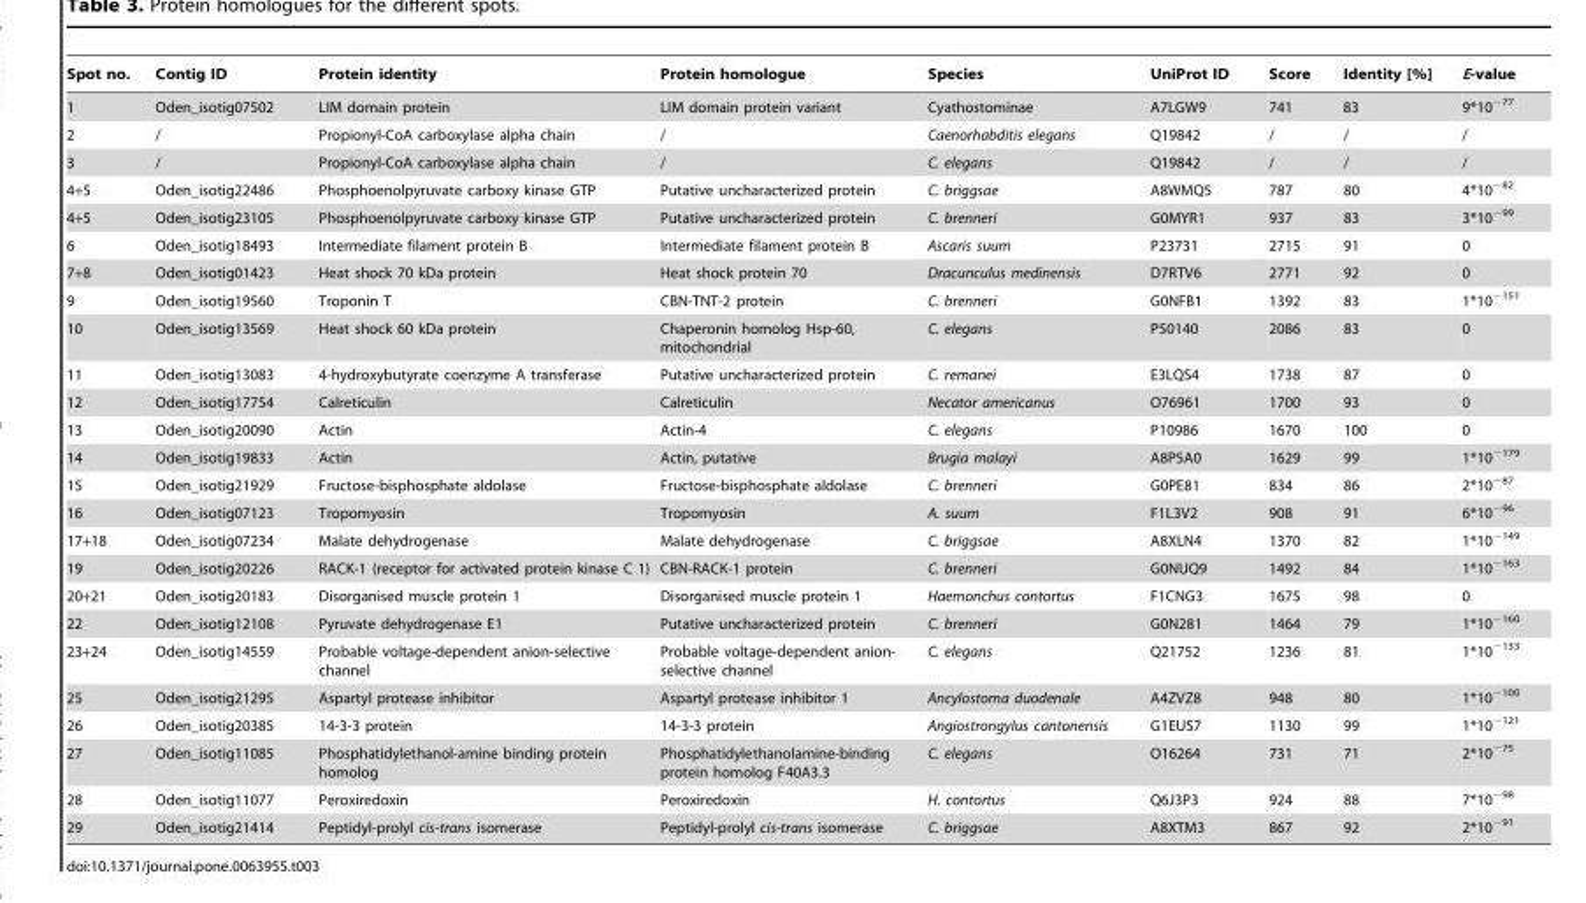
<table><thead><tr><td>Spot no.</td><td>Contig ID</td><td>Protein identity</td><td>Protein homologue</td><td>Species</td><td>UniProt ID</td><td>Score</td><td>Identity [%]</td><td>E-value</td></tr></thead><tbody><tr><td>1</td><td>Oden_isotig07502</td><td>LIM domain protein</td><td>LIM domain protein variant</td><td>Cyathostominae</td><td>A7LGW9</td><td>741</td><td>83</td><td>9*10<sup>−77</sup></td></tr><tr><td>2</td><td>/</td><td>Propionyl-CoA carboxylase alpha chain</td><td>/</td><td>Caenorhabditis elegans</td><td>Q19842</td><td>/</td><td>/</td><td>/</td></tr><tr><td>3</td><td>/</td><td>Propionyl-CoA carboxylase alpha chain</td><td>/</td><td>C. elegans</td><td>Q19842</td><td>/</td><td>/</td><td>/</td></tr><tr><td>4+5</td><td>Oden_isotig22486</td><td>Phosphoenolpyruvate carboxy kinase GTP</td><td>Putative uncharacterized protein</td><td>C. briggsae</td><td>A8WMQ5</td><td>787</td><td>80</td><td>4*10<sup>−82</sup></td></tr><tr><td>4+5</td><td>Oden_isotig23105</td><td>Phosphoenolpyruvate carboxy kinase GTP</td><td>Putative uncharacterized protein</td><td>C. brenneri</td><td>G0MYR1</td><td>937</td><td>83</td><td>3*10<sup>−99</sup></td></tr><tr><td>6</td><td>Oden_isotig18493</td><td>Intermediate filament protein B</td><td>Intermediate filament protein B</td><td>Ascaris suum</td><td>P23731</td><td>2715</td><td>91</td><td>0</td></tr><tr><td>7+8</td><td>Oden_isotig01423</td><td>Heat shock 70 kDa protein</td><td>Heat shock protein 70</td><td>Dracunculus medinensis</td><td>D7RTV6</td><td>2771</td><td>92</td><td>0</td></tr><tr><td>9</td><td>Oden_isotig19560</td><td>Troponin T</td><td>CBN-TNT-2 protein</td><td>C. brenneri</td><td>G0NFB1</td><td>1392</td><td>83</td><td>1*10<sup>−151</sup></td></tr><tr><td>10</td><td>Oden_isotig13569</td><td>Heat shock 60 kDa protein</td><td>Chaperonin homolog Hsp-60, mitochondrial</td><td>C. elegans</td><td>P50140</td><td>2086</td><td>83</td><td>0</td></tr><tr><td>11</td><td>Oden_isotig13083</td><td>4-hydroxybutyrate coenzyme A transferase</td><td>Putative uncharacterized protein</td><td>C. remanei</td><td>E3LQS4</td><td>1738</td><td>87</td><td>0</td></tr><tr><td>12</td><td>Oden_isotig17754</td><td>Calreticulin</td><td>Calreticulin</td><td>Necator americanus</td><td>O76961</td><td>1700</td><td>93</td><td>0</td></tr><tr><td>13</td><td>Oden_isotig20090</td><td>Actin</td><td>Actin-4</td><td>C. elegans</td><td>P10986</td><td>1670</td><td>100</td><td>0</td></tr><tr><td>14</td><td>Oden_isotig19833</td><td>Actin</td><td>Actin, putative</td><td>Brugia malayi</td><td>A8P5A0</td><td>1629</td><td>99</td><td>1*10<sup>−179</sup></td></tr><tr><td>15</td><td>Oden_isotig21929</td><td>Fructose-bisphosphate aldolase</td><td>Fructose-bisphosphate aldolase</td><td>C. brenneri</td><td>G0PE81</td><td>834</td><td>86</td><td>2*10<sup>−87</sup></td></tr><tr><td>16</td><td>Oden_isotig07123</td><td>Tropomyosin</td><td>Tropomyosin</td><td>A. suum</td><td>F1L3V2</td><td>908</td><td>91</td><td>6*10<sup>−96</sup></td></tr><tr><td>17+18</td><td>Oden_isotig07234</td><td>Malate dehydrogenase</td><td>Malate dehydrogenase</td><td>C. briggsae</td><td>A8XLN4</td><td>1370</td><td>82</td><td>1*10<sup>−149</sup></td></tr><tr><td>19</td><td>Oden_isotig20226</td><td>RACK-1 (receptor for activated protein kinase C 1)</td><td>CBN-RACK-1 protein</td><td>C. brenneri</td><td>G0NUQ9</td><td>1492</td><td>84</td><td>1*10<sup>−163</sup></td></tr><tr><td>20+21</td><td>Oden_isotig20183</td><td>Disorganised muscle protein 1</td><td>Disorganised muscle protein 1</td><td>Haemonchus contortus</td><td>F1CNG3</td><td>1675</td><td>98</td><td>0</td></tr><tr><td>22</td><td>Oden_isotig12108</td><td>Pyruvate dehydrogenase E1</td><td>Putative uncharacterized protein</td><td>C. brenneri</td><td>G0N281</td><td>1464</td><td>79</td><td>1*10<sup>−160</sup></td></tr><tr><td>23+24</td><td>Oden_isotig14559</td><td>Probable voltage-dependent anion-selective channel</td><td>Probable voltage-dependent anion- selective channel</td><td>C. elegans</td><td>Q21752</td><td>1236</td><td>81</td><td>1*10<sup>−133</sup></td></tr><tr><td>25</td><td>Oden_isotig21295</td><td>Aspartyl protease inhibitor</td><td>Aspartyl protease inhibitor 1</td><td>Ancylostoma duodenale</td><td>A4ZVZ8</td><td>948</td><td>80</td><td>1*10<sup>−100</sup></td></tr><tr><td>26</td><td>Oden_isotig20385</td><td>14-3-3 protein</td><td>14-3-3 protein</td><td>Angiostrongylus cantonensis</td><td>G1EUS7</td><td>1130</td><td>99</td><td>1*10<sup>−121</sup></td></tr><tr><td>27</td><td>Oden_isotig11085</td><td>Phosphatidylethanol-amine binding protein homolog</td><td>Phosphatidylethanolamine-binding protein homolog F40A3.3</td><td>C. elegans</td><td>O16264</td><td>731</td><td>71</td><td>2*10<sup>−75</sup></td></tr><tr><td>28</td><td>Oden_isotig11077</td><td>Peroxiredoxin</td><td>Peroxiredoxin</td><td>H. contortus</td><td>Q6J3P3</td><td>924</td><td>88</td><td>7*10<sup>−98</sup></td></tr><tr><td>29</td><td>Oden_isotig21414</td><td>Peptidyl-prolyl cis-trans isomerase</td><td>Peptidyl-prolyl cis-trans isomerase</td><td>C. briggsae</td><td>A8XTM3</td><td>867</td><td>92</td><td>2*10<sup>−91</sup></td></tr></tbody></table>